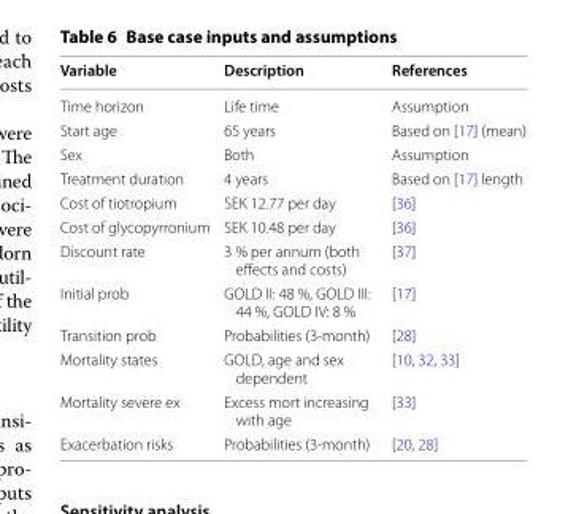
<table><thead><tr><td>Variable</td><td>Description</td><td>References</td></tr></thead><tbody><tr><td>Time horizon</td><td>Life time</td><td>Assumption</td></tr><tr><td>Start age</td><td>65 years</td><td>Based on [17] (mean)</td></tr><tr><td>Sex</td><td>Both</td><td>Assumption</td></tr><tr><td>Treatment duration</td><td>4 years</td><td>Based on [17] length</td></tr><tr><td>Cost of tiotropium</td><td>SEK 12.77 per day</td><td>[36]</td></tr><tr><td>Cost of glycopyrronium</td><td>SEK 10.48 per day</td><td>[36]</td></tr><tr><td>Discount rate</td><td>3 % per annum (both effects and costs)</td><td>[37]</td></tr><tr><td>Initial prob</td><td>GOLD II: 48 %, GOLD III: 44 %, GOLD IV: 8 %</td><td>[17]</td></tr><tr><td>Transition prob</td><td>Probabilities (3-month)</td><td>[28]</td></tr><tr><td>Mortality states</td><td>GOLD, age and sex dependent</td><td>[10, 32, 33]</td></tr><tr><td>Mortality severe ex</td><td>Excess mort increasing with age</td><td>[33]</td></tr><tr><td>Exacerbation risks</td><td>Probabilities (3-month)</td><td>[20, 28]</td></tr></tbody></table>